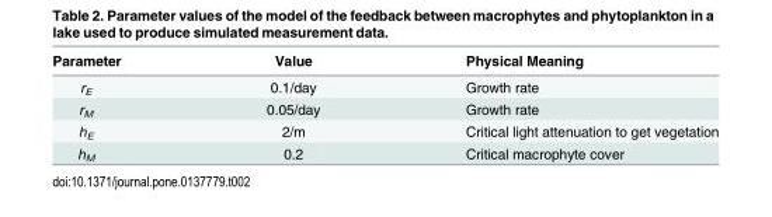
<table><thead><tr><td>Parameter</td><td>Value</td><td>Physical Meaning</td></tr></thead><tbody><tr><td>r<sub>E</sub></td><td>0.1/day</td><td>Growth rate</td></tr><tr><td>r<sub>M</sub></td><td>0.05/day</td><td>Growth rate</td></tr><tr><td>h<sub>E</sub></td><td>2/m</td><td>Critical light attenuation to get vegetation</td></tr><tr><td>h<sub>M</sub></td><td>0.2</td><td>Critical macrophyte cover</td></tr></tbody></table>